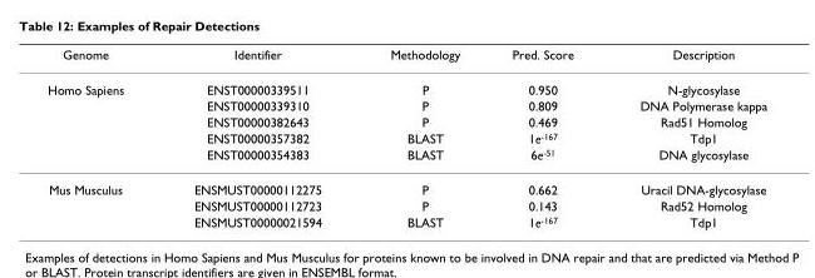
<table><thead><tr><td>Genome</td><td>Identifier</td><td>Methodology</td><td>Pred. Score</td><td>Description</td></tr></thead><tbody><tr><td rowspan="5">Homo Sapiens</td><td>ENST00000339511</td><td>P</td><td>0.950</td><td>N-glycosylase</td></tr><tr><td>ENST00000339310</td><td>P</td><td>0.809</td><td>DNA Polymerase kappa</td></tr><tr><td>ENST00000382643</td><td>P</td><td>0.469</td><td>Rad51 Homolog</td></tr><tr><td>ENST00000357382</td><td>BLAST</td><td>1e<sup>-167</sup></td><td>Tdp1</td></tr><tr><td>ENST00000354383</td><td>BLAST</td><td>6e<sup>-51</sup></td><td>DNA glycosylase</td></tr><tr><td rowspan="3">Mus Musculus</td><td>ENSMUST00000112275</td><td>P</td><td>0.662</td><td>Uracil DNA-glycosylase</td></tr><tr><td>ENSMUST00000112723</td><td>P</td><td>0.143</td><td>Rad52 Homolog</td></tr><tr><td>ENSMUST00000021594</td><td>BLAST</td><td>1e<sup>-167</sup></td><td>Tdp1</td></tr></tbody></table>